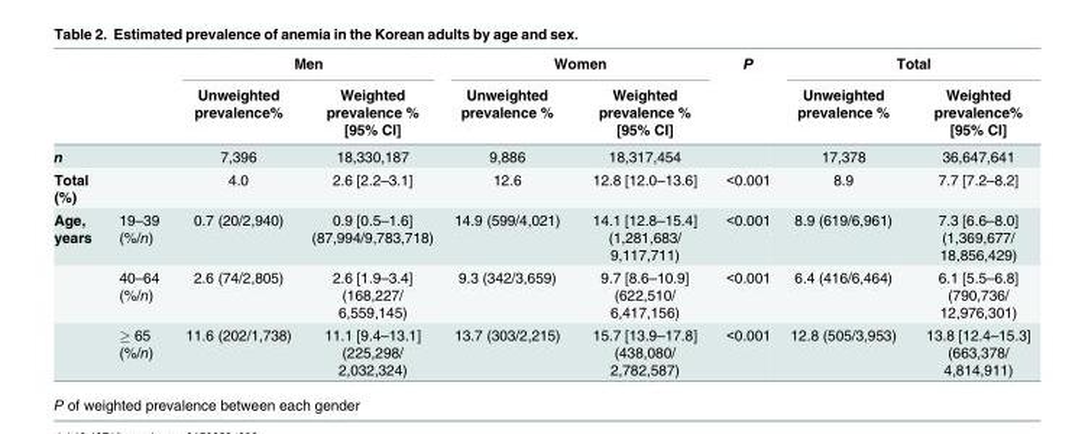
<table><thead><tr><td rowspan="2"></td><td rowspan="2"></td><td colspan="2">Men</td><td colspan="2">Women</td><td rowspan="2">P</td><td colspan="2">Total</td></tr><tr><td>Unweighted prevalence%</td><td>Weighted prevalence % [95% CI]</td><td>Unweighted prevalence %</td><td>Weighted prevalence % [95% CI]</td><td>Unweighted prevalence %</td><td>Weighted prevalence% [95% CI]</td></tr></thead><tbody><tr><td>n</td><td></td><td>7,396</td><td>18,330,187</td><td>9,886</td><td>18,317,454</td><td></td><td>17,378</td><td>36,647,641</td></tr><tr><td>Total (%)</td><td></td><td>4.0</td><td>2.6 [2.2–3.1]</td><td>12.6</td><td>12.8 [12.0–13.6]</td><td>&lt;0.001</td><td>8.9</td><td>7.7 [7.2–8.2]</td></tr><tr><td rowspan="3">Age, years</td><td>19–39 (%/n)</td><td>0.7 (20/2,940)</td><td>0.9 [0.5–1.6] (87,994/9,783,718)</td><td>14.9 (599/4,021)</td><td>14.1 [12.8–15.4] (1,281,683/ 9,117,711)</td><td>&lt;0.001</td><td>8.9 (619/6,961)</td><td>7.3 [6.6–8.0] (1,369,677/ 18,856,429)</td></tr><tr><td>40–64 (%/n)</td><td>2.6 (74/2,805)</td><td>2.6 [1.9–3.4] (168,227/ 6,559,145)</td><td>9.3 (342/3,659)</td><td>9.7 [8.6–10.9] (622,510/ 6,417,156)</td><td>&lt;0.001</td><td>6.4 (416/6,464)</td><td>6.1 [5.5–6.8] (790,736/ 12,976,301)</td></tr><tr><td>≥ 65 (%/n)</td><td>11.6 (202/1,738)</td><td>11.1 [9.4–13.1] (225,298/ 2,032,324)</td><td>13.7 (303/2,215)</td><td>15.7 [13.9–17.8] (438,080/ 2,782,587)</td><td>&lt;0.001</td><td>12.8 (505/3,953)</td><td>13.8 [12.4–15.3] (663,378/ 4,814,911)</td></tr></tbody></table>